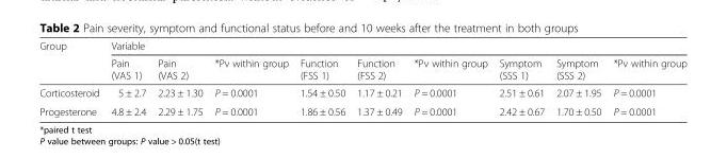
<table><thead><tr><td rowspan="2">Group</td><td colspan="9">Variable</td></tr><tr><td>Pain (VAS 1)</td><td>Pain (VAS 2)</td><td>*Pv within group</td><td>Function (FSS 1)</td><td>Function (FSS 2)</td><td>*Pv within group</td><td>Symptom (SSS 1)</td><td>Symptom (SSS 2)</td><td>*Pv within group</td></tr></thead><tbody><tr><td>Corticosteroid</td><td>5 ± 2.7</td><td>2.23 ± 1.30</td><td>P = 0.0001</td><td>1.54 ± 0.50</td><td>1.17 ± 0.21</td><td>P = 0.0001</td><td>2.51 ± 0.61</td><td>2.07 ± 1.95</td><td>P = 0.0001</td></tr><tr><td>Progesterone</td><td>4.8 ± 2.4</td><td>2.29 ± 1.75</td><td>P = 0.0001</td><td>1.86 ± 0.56</td><td>1.37 ± 0.49</td><td>P = 0.0001</td><td>2.42 ± 0.67</td><td>1.70 ± 0.50</td><td>P = 0.0001</td></tr></tbody></table>